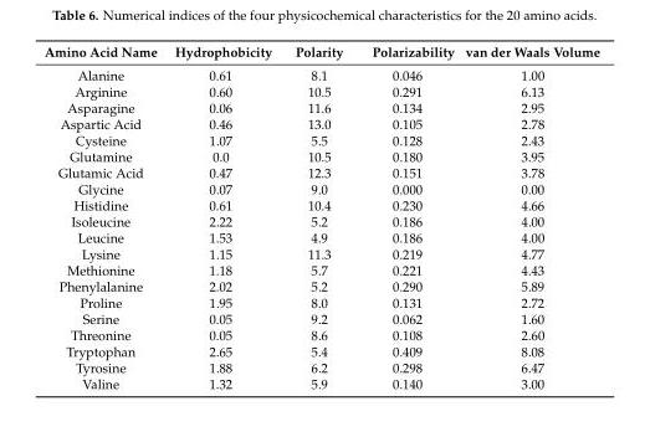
<table><thead><tr><td>Amino Acid Name</td><td>Hydrophobicity</td><td>Polarity</td><td>Polarizability</td><td>van der Waals Volume</td></tr></thead><tbody><tr><td>Alanine</td><td>0.61</td><td>8.1</td><td>0.046</td><td>1.00</td></tr><tr><td>Arginine</td><td>0.60</td><td>10.5</td><td>0.291</td><td>6.13</td></tr><tr><td>Asparagine</td><td>0.06</td><td>11.6</td><td>0.134</td><td>2.95</td></tr><tr><td>Aspartic Acid</td><td>0.46</td><td>13.0</td><td>0.105</td><td>2.78</td></tr><tr><td>Cysteine</td><td>1.07</td><td>5.5</td><td>0.128</td><td>2.43</td></tr><tr><td>Glutamine</td><td>0.0</td><td>10.5</td><td>0.180</td><td>3.95</td></tr><tr><td>Glutamic Acid</td><td>0.47</td><td>12.3</td><td>0.151</td><td>3.78</td></tr><tr><td>Glycine</td><td>0.07</td><td>9.0</td><td>0.000</td><td>0.00</td></tr><tr><td>Histidine</td><td>0.61</td><td>10.4</td><td>0.230</td><td>4.66</td></tr><tr><td>Isoleucine</td><td>2.22</td><td>5.2</td><td>0.186</td><td>4.00</td></tr><tr><td>Leucine</td><td>1.53</td><td>4.9</td><td>0.186</td><td>4.00</td></tr><tr><td>Lysine</td><td>1.15</td><td>11.3</td><td>0.219</td><td>4.77</td></tr><tr><td>Methionine</td><td>1.18</td><td>5.7</td><td>0.221</td><td>4.43</td></tr><tr><td>Phenylalanine</td><td>2.02</td><td>5.2</td><td>0.290</td><td>5.89</td></tr><tr><td>Proline</td><td>1.95</td><td>8.0</td><td>0.131</td><td>2.72</td></tr><tr><td>Serine</td><td>0.05</td><td>9.2</td><td>0.062</td><td>1.60</td></tr><tr><td>Threonine</td><td>0.05</td><td>8.6</td><td>0.108</td><td>2.60</td></tr><tr><td>Tryptophan</td><td>2.65</td><td>5.4</td><td>0.409</td><td>8.08</td></tr><tr><td>Tyrosine</td><td>1.88</td><td>6.2</td><td>0.298</td><td>6.47</td></tr><tr><td>Valine</td><td>1.32</td><td>5.9</td><td>0.140</td><td>3.00</td></tr></tbody></table>